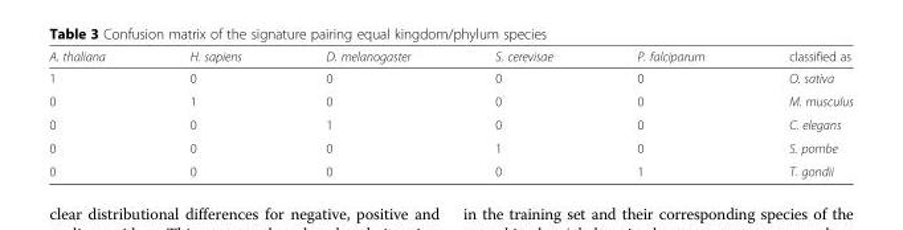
<table><thead><tr><td>A. thaliana</td><td>H. sapiens</td><td>D. melanogaster</td><td>S. cerevisae</td><td>P. falciparum</td><td>classified as</td></tr></thead><tbody><tr><td>1</td><td>0</td><td>0</td><td>0</td><td>0</td><td>O. sativa</td></tr><tr><td>0</td><td>1</td><td>0</td><td>0</td><td>0</td><td>M. musculus</td></tr><tr><td>0</td><td>0</td><td>1</td><td>0</td><td>0</td><td>C. elegans</td></tr><tr><td>0</td><td>0</td><td>0</td><td>1</td><td>0</td><td>S. pombe</td></tr><tr><td>0</td><td>0</td><td>0</td><td>0</td><td>1</td><td>T. gondii</td></tr></tbody></table>